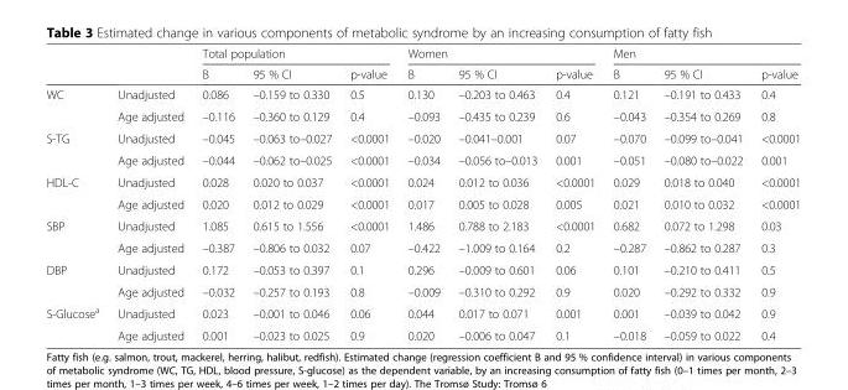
<table><thead><tr><td rowspan="2"></td><td rowspan="2"></td><td colspan="3">Total population</td><td colspan="3">Women</td><td colspan="3">Men</td></tr><tr><td>B</td><td>95 % CI</td><td>p-value</td><td>B</td><td>95 % CI</td><td>p-value</td><td>B</td><td>95 % CI</td><td>p-value</td></tr></thead><tbody><tr><td rowspan="2">WC</td><td>Unadjusted</td><td>0.086</td><td>–0.159 to 0.330</td><td>0.5</td><td>0.130</td><td>–0.203 to 0.463</td><td>0.4</td><td>0.121</td><td>–0.191 to 0.433</td><td>0.4</td></tr><tr><td>Age adjusted</td><td>–0.116</td><td>–0.360 to 0.129</td><td>0.4</td><td>–0.093</td><td>–0.435 to 0.239</td><td>0.6</td><td>–0.043</td><td>–0.354 to 0.269</td><td>0.8</td></tr><tr><td rowspan="2">S-TG</td><td>Unadjusted</td><td>–0.045</td><td>–0.063 to–0.027</td><td>&lt;0.0001</td><td>–0.020</td><td>–0.041–0.001</td><td>0.07</td><td>–0.070</td><td>–0.099 to–0.041</td><td>&lt;0.0001</td></tr><tr><td>Age adjusted</td><td>–0.044</td><td>–0.062 to–0.025</td><td>&lt;0.0001</td><td>–0.034</td><td>–0.056 to–0.013</td><td>0.001</td><td>–0.051</td><td>–0.080 to–0.022</td><td>0.001</td></tr><tr><td rowspan="2">HDL-C</td><td>Unadjusted</td><td>0.028</td><td>0.020 to 0.037</td><td>&lt;0.0001</td><td>0.024</td><td>0.012 to 0.036</td><td>&lt;0.0001</td><td>0.029</td><td>0.018 to 0.040</td><td>&lt;0.0001</td></tr><tr><td>Age adjusted</td><td>0.020</td><td>0.012 to 0.029</td><td>&lt;0.0001</td><td>0.017</td><td>0.005 to 0.028</td><td>0.005</td><td>0.021</td><td>0.010 to 0.032</td><td>&lt;0.0001</td></tr><tr><td rowspan="2">SBP</td><td>Unadjusted</td><td>1.085</td><td>0.615 to 1.556</td><td>&lt;0.0001</td><td>1.486</td><td>0.788 to 2.183</td><td>&lt;0.0001</td><td>0.682</td><td>0.072 to 1.298</td><td>0.03</td></tr><tr><td>Age adjusted</td><td>–0.387</td><td>–0.806 to 0.032</td><td>0.07</td><td>–0.422</td><td>–1.009 to 0.164</td><td>0.2</td><td>–0.287</td><td>–0.862 to 0.287</td><td>0.3</td></tr><tr><td rowspan="2">DBP</td><td>Unadjusted</td><td>0.172</td><td>–0.053 to 0.397</td><td>0.1</td><td>0.296</td><td>–0.009 to 0.601</td><td>0.06</td><td>0.101</td><td>–0.210 to 0.411</td><td>0.5</td></tr><tr><td>Age adjusted</td><td>–0.032</td><td>–0.257 to 0.193</td><td>0.8</td><td>–0.009</td><td>–0.310 to 0.292</td><td>0.9</td><td>0.020</td><td>–0.292 to 0.332</td><td>0.9</td></tr><tr><td rowspan="2">S-Glucose<sup>a</sup></td><td>Unadjusted</td><td>0.023</td><td>–0.001 to 0.046</td><td>0.06</td><td>0.044</td><td>0.017 to 0.071</td><td>0.001</td><td>0.001</td><td>–0.039 to 0.042</td><td>0.9</td></tr><tr><td>Age adjusted</td><td>0.001</td><td>–0.023 to 0.025</td><td>0.9</td><td>0.020</td><td>–0.006 to 0.047</td><td>0.1</td><td>–0.018</td><td>–0.059 to 0.022</td><td>0.4</td></tr></tbody></table>